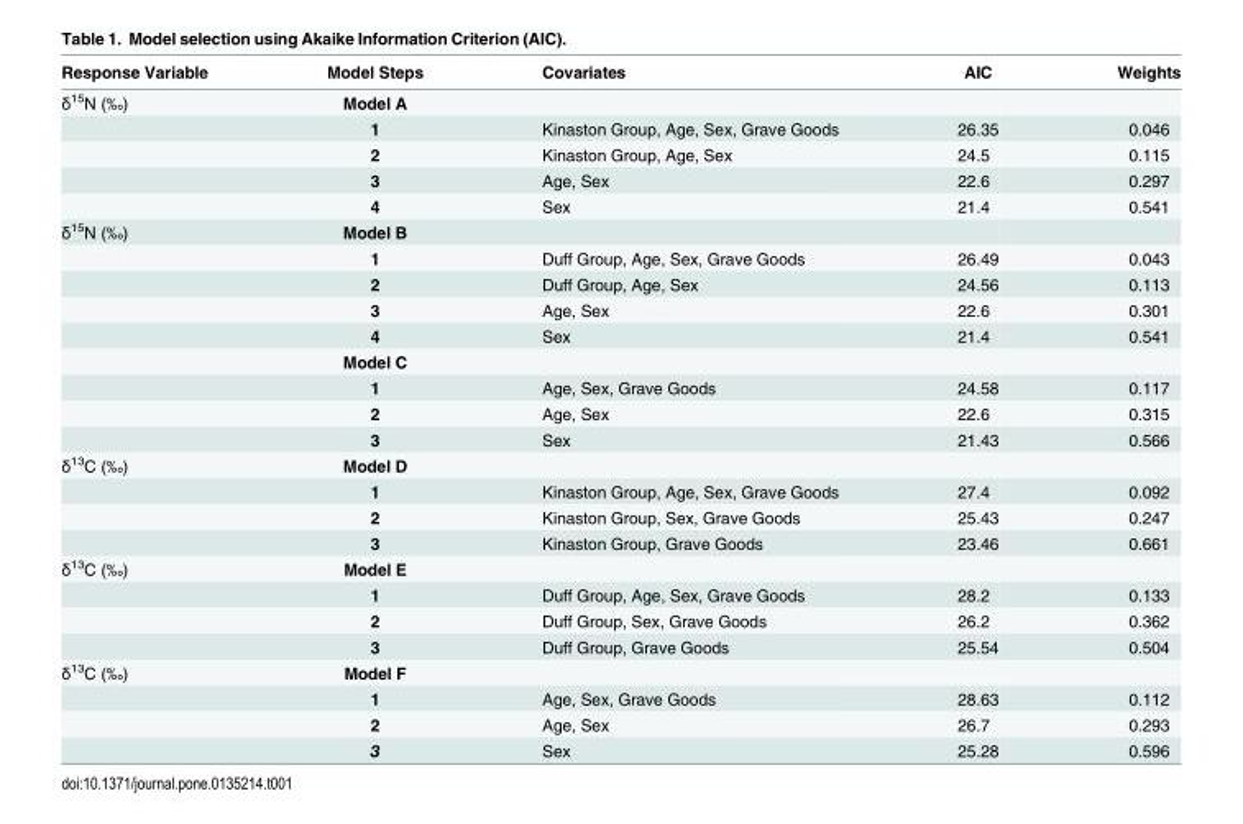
<table><thead><tr><td>Response Variable</td><td>Model Steps</td><td>Covariates</td><td>AIC</td><td>Weights</td></tr></thead><tbody><tr><td rowspan="5">δ<sup>15</sup>N (‰)</td><td>Model A</td><td></td><td></td><td></td></tr><tr><td>1</td><td>Kinaston Group, Age, Sex, Grave Goods</td><td>26.35</td><td>0.046</td></tr><tr><td>2</td><td>Kinaston Group, Age, Sex</td><td>24.5</td><td>0.115</td></tr><tr><td>3</td><td>Age, Sex</td><td>22.6</td><td>0.297</td></tr><tr><td>4</td><td>Sex</td><td>21.4</td><td>0.541</td></tr><tr><td rowspan="9">δ<sup>15</sup>N (‰)</td><td>Model B</td><td></td><td></td><td></td></tr><tr><td>1</td><td>Duff Group, Age, Sex, Grave Goods</td><td>26.49</td><td>0.043</td></tr><tr><td>2</td><td>Duff Group, Age, Sex</td><td>24.56</td><td>0.113</td></tr><tr><td>3</td><td>Age, Sex</td><td>22.6</td><td>0.301</td></tr><tr><td>4</td><td>Sex</td><td>21.4</td><td>0.541</td></tr><tr><td>Model C</td><td></td><td></td><td></td></tr><tr><td>1</td><td>Age, Sex, Grave Goods</td><td>24.58</td><td>0.117</td></tr><tr><td>2</td><td>Age, Sex</td><td>22.6</td><td>0.315</td></tr><tr><td>3</td><td>Sex</td><td>21.43</td><td>0.566</td></tr><tr><td rowspan="4">δ<sup>13</sup>C (‰)</td><td>Model D</td><td></td><td></td><td></td></tr><tr><td>1</td><td>Kinaston Group, Age, Sex, Grave Goods</td><td>27.4</td><td>0.092</td></tr><tr><td>2</td><td>Kinaston Group, Sex, Grave Goods</td><td>25.43</td><td>0.247</td></tr><tr><td>3</td><td>Kinaston Group, Grave Goods</td><td>23.46</td><td>0.661</td></tr><tr><td rowspan="4">δ<sup>13</sup>C (‰)</td><td>Model E</td><td></td><td></td><td></td></tr><tr><td>1</td><td>Duff Group, Age, Sex, Grave Goods</td><td>28.2</td><td>0.133</td></tr><tr><td>2</td><td>Duff Group, Sex, Grave Goods</td><td>26.2</td><td>0.362</td></tr><tr><td>3</td><td>Duff Group, Grave Goods</td><td>25.54</td><td>0.504</td></tr><tr><td rowspan="4">δ<sup>13</sup>C (‰)</td><td>Model F</td><td></td><td></td><td></td></tr><tr><td>1</td><td>Age, Sex, Grave Goods</td><td>28.63</td><td>0.112</td></tr><tr><td>2</td><td>Age, Sex</td><td>26.7</td><td>0.293</td></tr><tr><td>3</td><td>Sex</td><td>25.28</td><td>0.596</td></tr></tbody></table>